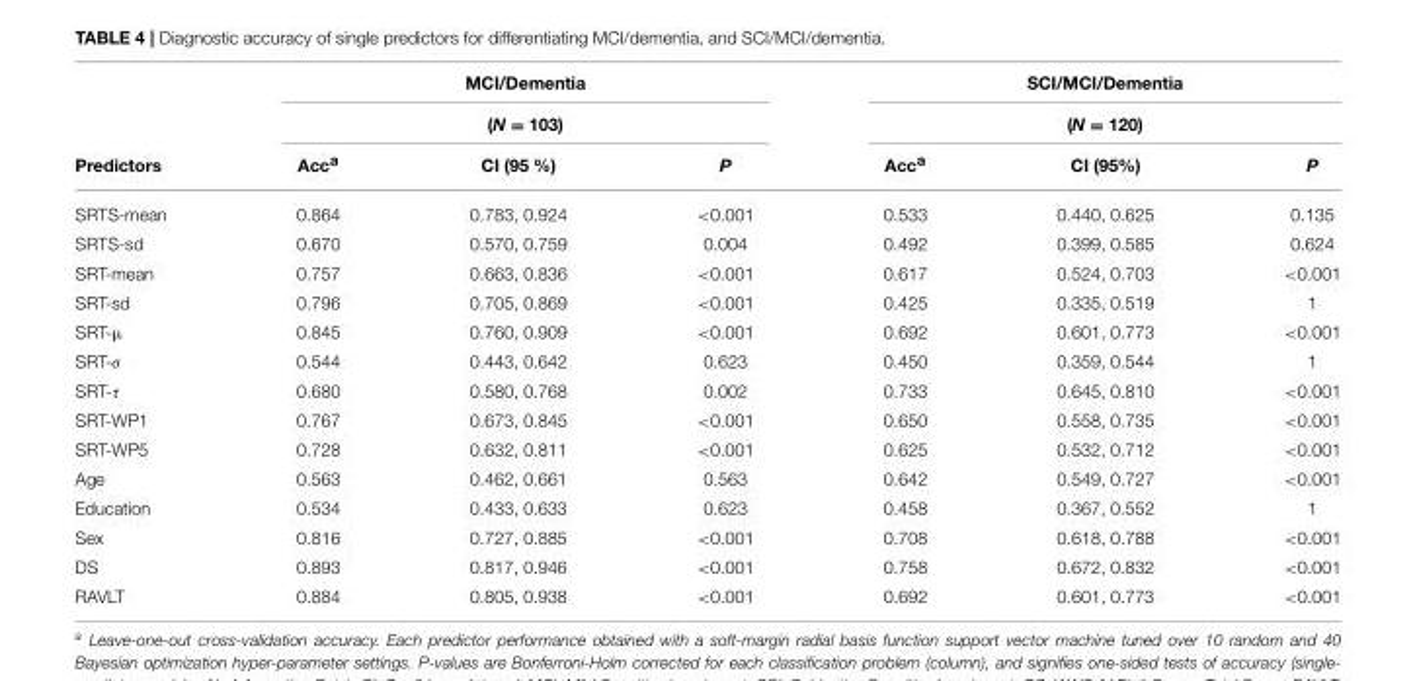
<table><thead><tr><td rowspan="3">Predictors</td><td rowspan="2" colspan="3">MCI/Dementia (N = 103)</td><td rowspan="2" colspan="3">SCI/MCI/Dementia (N = 120)</td></tr><tr></tr><tr><td>Acc<sup>a</sup></td><td>CI (95 %)</td><td>P</td><td>Acc<sup>a</sup></td><td>CI (95%)</td><td>P</td></tr></thead><tbody><tr><td>SRTS-mean</td><td>0.864</td><td>0.783, 0.924</td><td>&lt;0.001</td><td>0.533</td><td>0.440, 0.625</td><td>0.135</td></tr><tr><td>SRTS-sd</td><td>0.670</td><td>0.570, 0.759</td><td>0.004</td><td>0.492</td><td>0.399, 0.585</td><td>0.624</td></tr><tr><td>SRT-mean</td><td>0.757</td><td>0.663, 0.836</td><td>&lt;0.001</td><td>0.617</td><td>0.524, 0.703</td><td>&lt;0.001</td></tr><tr><td>SRT-sd</td><td>0.796</td><td>0.705, 0.869</td><td>&lt;0.001</td><td>0.425</td><td>0.335, 0.519</td><td>1</td></tr><tr><td>SRT-µ</td><td>0.845</td><td>0.760, 0.909</td><td>&lt;0.001</td><td>0.692</td><td>0.601, 0.773</td><td>&lt;0.001</td></tr><tr><td>SRT-σ</td><td>0.544</td><td>0.443, 0.642</td><td>0.623</td><td>0.450</td><td>0.359, 0.544</td><td>1</td></tr><tr><td>SRT-τ</td><td>0.680</td><td>0.580, 0.768</td><td>0.002</td><td>0.733</td><td>0.645, 0.810</td><td>&lt;0.001</td></tr><tr><td>SRT-WP1</td><td>0.767</td><td>0.673, 0.845</td><td>&lt;0.001</td><td>0.650</td><td>0.558, 0.735</td><td>&lt;0.001</td></tr><tr><td>SRT-WP5</td><td>0.728</td><td>0.632, 0.811</td><td>&lt;0.001</td><td>0.625</td><td>0.532, 0.712</td><td>&lt;0.001</td></tr><tr><td>Age</td><td>0.563</td><td>0.462, 0.661</td><td>0.563</td><td>0.642</td><td>0.549, 0.727</td><td>&lt;0.001</td></tr><tr><td>Education</td><td>0.534</td><td>0.433, 0.633</td><td>0.623</td><td>0.458</td><td>0.367, 0.552</td><td>1</td></tr><tr><td>Sex</td><td>0.816</td><td>0.727, 0.885</td><td>&lt;0.001</td><td>0.708</td><td>0.618, 0.788</td><td>&lt;0.001</td></tr><tr><td>DS</td><td>0.893</td><td>0.817, 0.946</td><td>&lt;0.001</td><td>0.758</td><td>0.672, 0.832</td><td>&lt;0.001</td></tr><tr><td>RAVLT</td><td>0.884</td><td>0.805, 0.938</td><td>&lt;0.001</td><td>0.692</td><td>0.601, 0.773</td><td>&lt;0.001</td></tr></tbody></table>